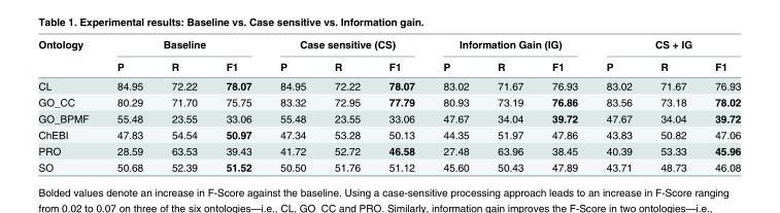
<table><thead><tr><td rowspan="2">Ontology</td><td colspan="3">Baseline</td><td colspan="3">Case sensitive (CS)</td><td colspan="3">Information Gain (IG)</td><td colspan="3">CS + IG</td></tr><tr><td>P</td><td>R</td><td>F1</td><td>P</td><td>R</td><td>F1</td><td>P</td><td>R</td><td>F1</td><td>P</td><td>R</td><td>F1</td></tr></thead><tbody><tr><td>CL</td><td>84.95</td><td>72.22</td><td>78.07</td><td>84.95</td><td>72.22</td><td>78.07</td><td>83.02</td><td>71.67</td><td>76.93</td><td>83.02</td><td>71.67</td><td>76.93</td></tr><tr><td>GO_CC</td><td>80.29</td><td>71.70</td><td>75.75</td><td>83.32</td><td>72.95</td><td>77.79</td><td>80.93</td><td>73.19</td><td>76.86</td><td>83.56</td><td>73.18</td><td>78.02</td></tr><tr><td>GO_BPMF</td><td>55.48</td><td>23.55</td><td>33.06</td><td>55.48</td><td>23.55</td><td>33.06</td><td>47.67</td><td>34.04</td><td>39.72</td><td>47.67</td><td>34.04</td><td>39.72</td></tr><tr><td>ChEBI</td><td>47.83</td><td>54.54</td><td>50.97</td><td>47.34</td><td>53.28</td><td>50.13</td><td>44.35</td><td>51.97</td><td>47.86</td><td>43.83</td><td>50.82</td><td>47.06</td></tr><tr><td>PRO</td><td>28.59</td><td>63.53</td><td>39.43</td><td>41.72</td><td>52.72</td><td>46.58</td><td>27.48</td><td>63.96</td><td>38.45</td><td>40.39</td><td>53.33</td><td>45.96</td></tr><tr><td>SO</td><td>50.68</td><td>52.39</td><td>51.52</td><td>50.50</td><td>51.76</td><td>51.12</td><td>45.60</td><td>50.43</td><td>47.89</td><td>43.71</td><td>48.73</td><td>46.08</td></tr></tbody></table>